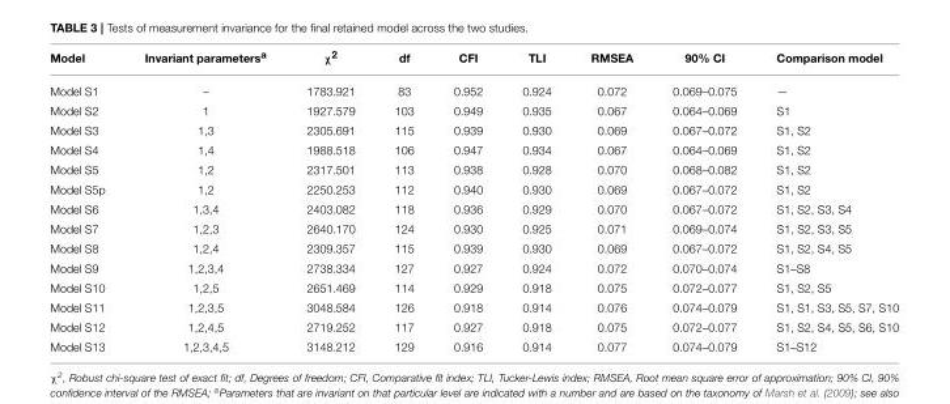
<table><thead><tr><td>Model</td><td>Invariant parameters<sup>a</sup></td><td>χ<sup>2</sup></td><td>df</td><td>CFI</td><td>TLI</td><td>RMSEA</td><td>90% CI</td><td>Comparison model</td></tr></thead><tbody><tr><td>Model S1</td><td>–</td><td>1783.921</td><td>83</td><td>0.952</td><td>0.924</td><td>0.072</td><td>0.069–0.075</td><td>—</td></tr><tr><td>Model S2</td><td>1</td><td>1927.579</td><td>103</td><td>0.949</td><td>0.935</td><td>0.067</td><td>0.064–0.069</td><td>S1</td></tr><tr><td>Model S3</td><td>1,3</td><td>2305.691</td><td>115</td><td>0.939</td><td>0.930</td><td>0.069</td><td>0.067–0.072</td><td>S1, S2</td></tr><tr><td>Model S4</td><td>1,4</td><td>1988.518</td><td>106</td><td>0.947</td><td>0.934</td><td>0.067</td><td>0.064–0.069</td><td>S1, S2</td></tr><tr><td>Model S5</td><td>1,2</td><td>2317.501</td><td>113</td><td>0.938</td><td>0.928</td><td>0.070</td><td>0.068–0.082</td><td>S1, S2</td></tr><tr><td>Model S5p</td><td>1,2</td><td>2250.253</td><td>112</td><td>0.940</td><td>0.930</td><td>0.069</td><td>0.067–0.072</td><td>S1, S2</td></tr><tr><td>Model S6</td><td>1,3,4</td><td>2403.082</td><td>118</td><td>0.936</td><td>0.929</td><td>0.070</td><td>0.067–0.072</td><td>S1, S2, S3, S4</td></tr><tr><td>Model S7</td><td>1,2,3</td><td>2640.170</td><td>124</td><td>0.930</td><td>0.925</td><td>0.071</td><td>0.069–0.074</td><td>S1, S2, S3, S5</td></tr><tr><td>Model S8</td><td>1,2,4</td><td>2309.357</td><td>115</td><td>0.939</td><td>0.930</td><td>0.069</td><td>0.067–0.072</td><td>S1, S2, S4, S5</td></tr><tr><td>Model S9</td><td>1,2,3,4</td><td>2738.334</td><td>127</td><td>0.927</td><td>0.924</td><td>0.072</td><td>0.070–0.074</td><td>S1–S8</td></tr><tr><td>Model S10</td><td>1,2,5</td><td>2651.469</td><td>114</td><td>0.929</td><td>0.918</td><td>0.075</td><td>0.072–0.077</td><td>S1, S2, S5</td></tr><tr><td>Model S11</td><td>1,2,3,5</td><td>3048.584</td><td>126</td><td>0.918</td><td>0.914</td><td>0.076</td><td>0.074–0.079</td><td>S1, S1, S3, S5, S7, S10</td></tr><tr><td>Model S12</td><td>1,2,4,5</td><td>2719.252</td><td>117</td><td>0.927</td><td>0.918</td><td>0.075</td><td>0.072–0.077</td><td>S1, S2, S4, S5, S6, S10</td></tr><tr><td>Model S13</td><td>1,2,3,4,5</td><td>3148.212</td><td>129</td><td>0.916</td><td>0.914</td><td>0.077</td><td>0.074–0.079</td><td>S1–S12</td></tr></tbody></table>